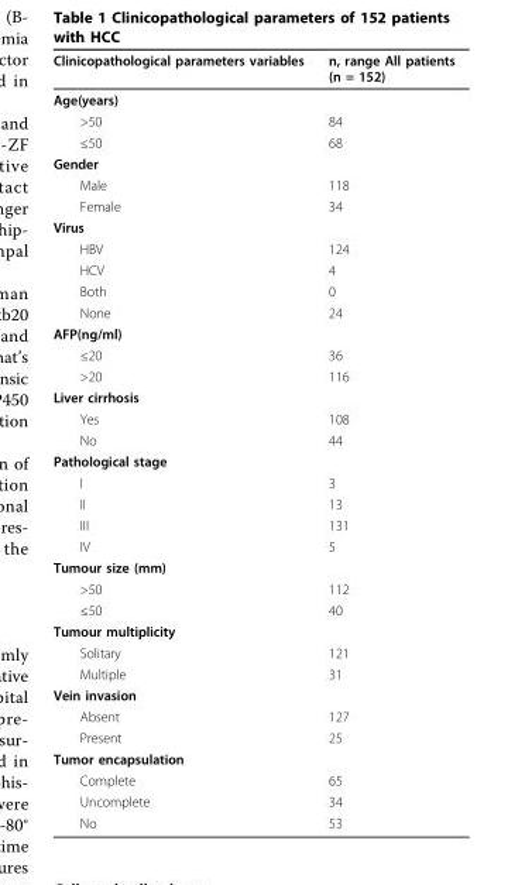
<table><thead><tr><td>Clinicopathological parameters variables</td><td>n, range All patients (n = 152)</td></tr></thead><tbody><tr><td colspan="2">Age(years)</td></tr><tr><td>&gt;50</td><td>84</td></tr><tr><td>≤50</td><td>68</td></tr><tr><td colspan="2">Gender</td></tr><tr><td>Male</td><td>118</td></tr><tr><td>Female</td><td>34</td></tr><tr><td colspan="2">Virus</td></tr><tr><td>HBV</td><td>124</td></tr><tr><td>HCV</td><td>4</td></tr><tr><td>Both</td><td>0</td></tr><tr><td>None</td><td>24</td></tr><tr><td colspan="2">AFP(ng/ml)</td></tr><tr><td>≤20</td><td>36</td></tr><tr><td>&gt;20</td><td>116</td></tr><tr><td colspan="2">Liver cirrhosis</td></tr><tr><td>Yes</td><td>108</td></tr><tr><td>No</td><td>44</td></tr><tr><td colspan="2">Pathological stage</td></tr><tr><td>I</td><td>3</td></tr><tr><td>II</td><td>13</td></tr><tr><td>III</td><td>131</td></tr><tr><td>IV</td><td>5</td></tr><tr><td colspan="2">Tumour size (mm)</td></tr><tr><td>&gt;50</td><td>112</td></tr><tr><td>≤50</td><td>40</td></tr><tr><td colspan="2">Tumour multiplicity</td></tr><tr><td>Solitary</td><td>121</td></tr><tr><td>Multiple</td><td>31</td></tr><tr><td colspan="2">Vein invasion</td></tr><tr><td>Absent</td><td>127</td></tr><tr><td>Present</td><td>25</td></tr><tr><td colspan="2">Tumor encapsulation</td></tr><tr><td>Complete</td><td>65</td></tr><tr><td>Uncomplete</td><td>34</td></tr><tr><td>No</td><td>53</td></tr></tbody></table>